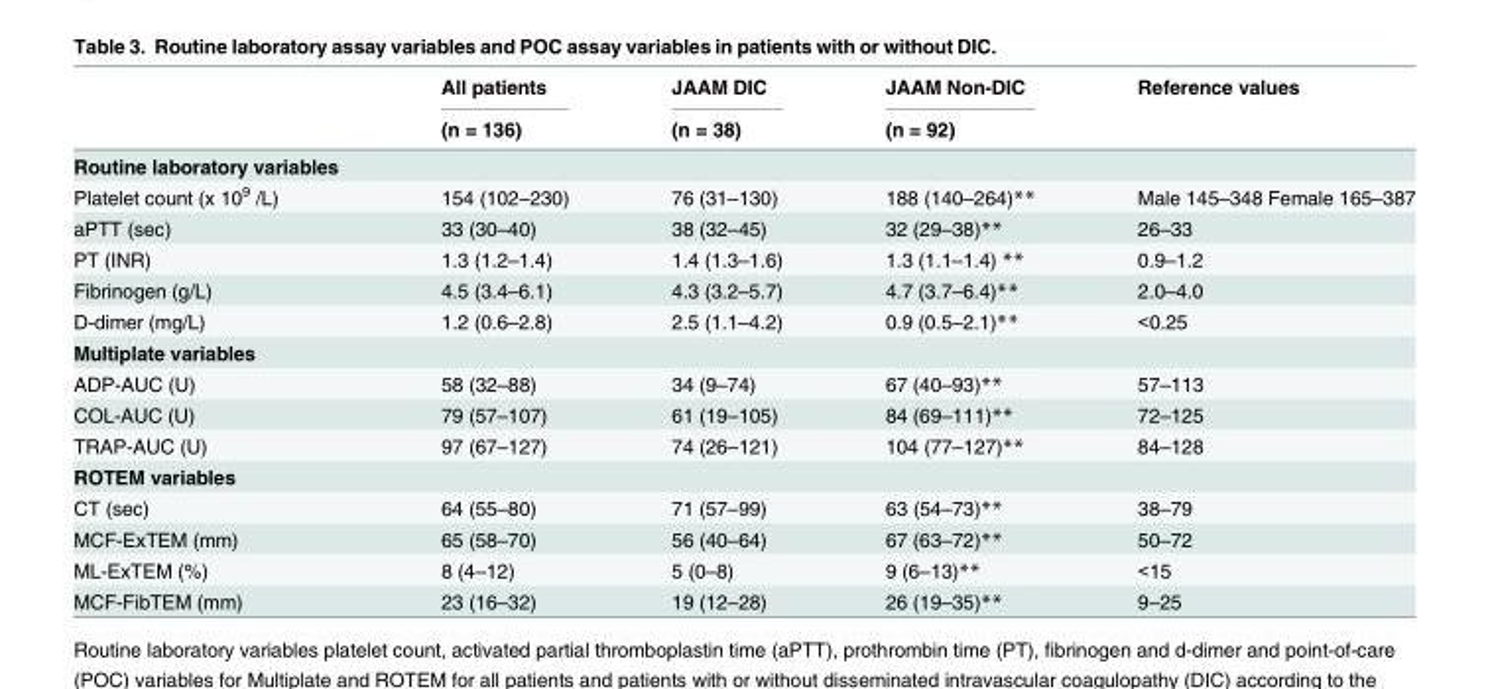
<table><thead><tr><td rowspan="2"></td><td rowspan="2">All patients (n = 136)</td><td rowspan="2">JAAM DIC (n = 38)</td><td rowspan="2">JAAM Non-DIC (n = 92)</td><td rowspan="2">Reference values</td></tr><tr></tr></thead><tbody><tr><td colspan="5">Routine laboratory variables</td></tr><tr><td>Platelet count (x 10<sup>9</sup> /L)</td><td>154 (102–230)</td><td>76 (31–130)</td><td>188 (140–264)**</td><td>Male 145–348 Female 165–387</td></tr><tr><td>aPTT (sec)</td><td>33 (30–40)</td><td>38 (32–45)</td><td>32 (29–38)**</td><td>26–33</td></tr><tr><td>PT (INR)</td><td>1.3 (1.2–1.4)</td><td>1.4 (1.3–1.6)</td><td>1.3 (1.1–1.4) **</td><td>0.9–1.2</td></tr><tr><td>Fibrinogen (g/L)</td><td>4.5 (3.4–6.1)</td><td>4.3 (3.2–5.7)</td><td>4.7 (3.7–6.4)**</td><td>2.0–4.0</td></tr><tr><td>D-dimer (mg/L)</td><td>1.2 (0.6–2.8)</td><td>2.5 (1.1–4.2)</td><td>0.9 (0.5–2.1)**</td><td>&lt;0.25</td></tr><tr><td colspan="5">Multiplate variables</td></tr><tr><td>ADP-AUC (U)</td><td>58 (32–88)</td><td>34 (9–74)</td><td>67 (40–93)**</td><td>57–113</td></tr><tr><td>COL-AUC (U)</td><td>79 (57–107)</td><td>61 (19–105)</td><td>84 (69–111)**</td><td>72–125</td></tr><tr><td>TRAP-AUC (U)</td><td>97 (67–127)</td><td>74 (26–121)</td><td>104 (77–127)**</td><td>84–128</td></tr><tr><td colspan="5">ROTEM variables</td></tr><tr><td>CT (sec)</td><td>64 (55–80)</td><td>71 (57–99)</td><td>63 (54–73)**</td><td>38–79</td></tr><tr><td>MCF-ExTEM (mm)</td><td>65 (58–70)</td><td>56 (40–64)</td><td>67 (63–72)**</td><td>50–72</td></tr><tr><td>ML-ExTEM (%)</td><td>8 (4–12)</td><td>5 (0–8)</td><td>9 (6–13)**</td><td>&lt;15</td></tr><tr><td>MCF-FibTEM (mm)</td><td>23 (16–32)</td><td>19 (12–28)</td><td>26 (19–35)**</td><td>9–25</td></tr></tbody></table>